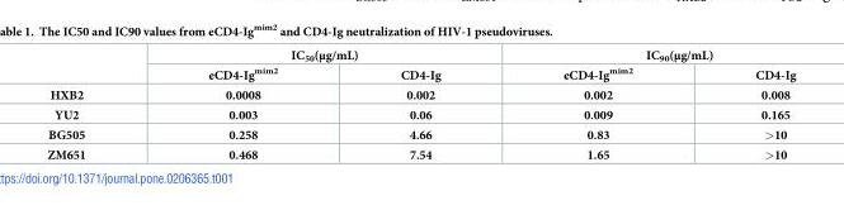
<table><thead><tr><td rowspan="2"></td><td colspan="2">IC<sub>50</sub>(μg/mL)</td><td colspan="2">IC<sub>90</sub>(μg/mL)</td></tr><tr><td>eCD4-Ig<sup>mim2</sup></td><td>CD4-Ig</td><td>eCD4-Ig<sup>mim2</sup></td><td>CD4-Ig</td></tr></thead><tbody><tr><td>HXB2</td><td>0.0008</td><td>0.002</td><td>0.002</td><td>0.008</td></tr><tr><td>YU2</td><td>0.003</td><td>0.06</td><td>0.009</td><td>0.165</td></tr><tr><td>BG505</td><td>0.258</td><td>4.66</td><td>0.83</td><td>&gt;10</td></tr><tr><td>ZM651</td><td>0.468</td><td>7.54</td><td>1.65</td><td>&gt;10</td></tr></tbody></table>